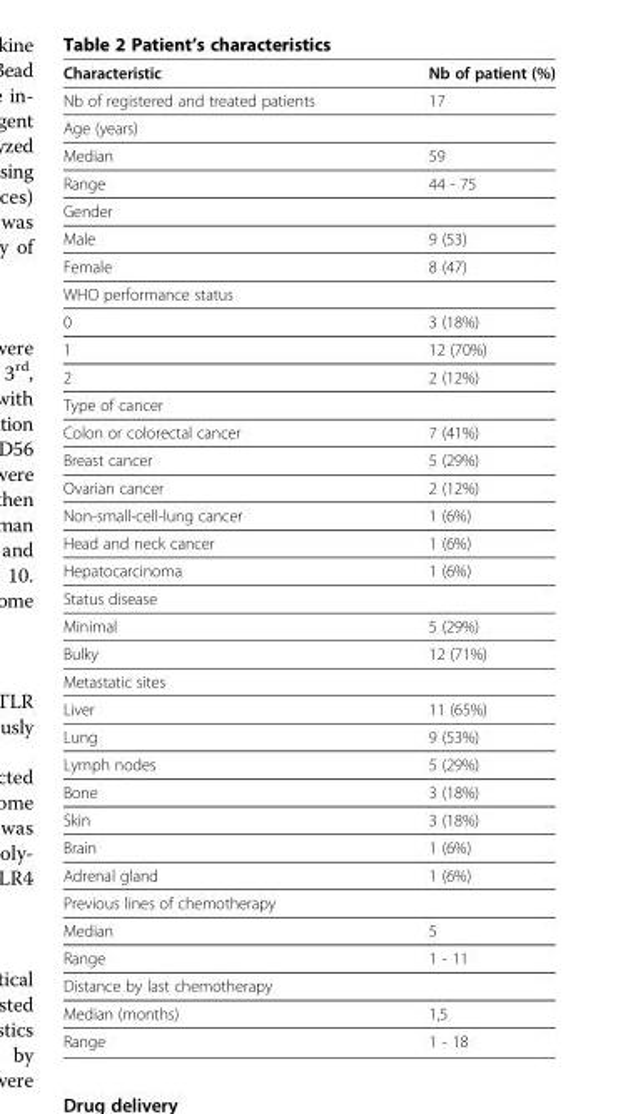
<table><thead><tr><td>Characteristic</td><td>Nb of patient (%)</td></tr></thead><tbody><tr><td>Nb of registered and treated patients</td><td>17</td></tr><tr><td colspan="2">Age (years)</td></tr><tr><td>Median</td><td>59</td></tr><tr><td>Range</td><td>44 - 75</td></tr><tr><td colspan="2">Gender</td></tr><tr><td>Male</td><td>9 (53)</td></tr><tr><td>Female</td><td>8 (47)</td></tr><tr><td colspan="2">WHO performance status</td></tr><tr><td>0</td><td>3 (18%)</td></tr><tr><td>1</td><td>12 (70%)</td></tr><tr><td>2</td><td>2 (12%)</td></tr><tr><td colspan="2">Type of cancer</td></tr><tr><td>Colon or colorectal cancer</td><td>7 (41%)</td></tr><tr><td>Breast cancer</td><td>5 (29%)</td></tr><tr><td>Ovarian cancer</td><td>2 (12%)</td></tr><tr><td>Non-small-cell-lung cancer</td><td>1 (6%)</td></tr><tr><td>Head and neck cancer</td><td>1 (6%)</td></tr><tr><td>Hepatocarcinoma</td><td>1 (6%)</td></tr><tr><td colspan="2">Status disease</td></tr><tr><td>Minimal</td><td>5 (29%)</td></tr><tr><td>Bulky</td><td>12 (71%)</td></tr><tr><td colspan="2">Metastatic sites</td></tr><tr><td>Liver</td><td>11 (65%)</td></tr><tr><td>Lung</td><td>9 (53%)</td></tr><tr><td>Lymph nodes</td><td>5 (29%)</td></tr><tr><td>Bone</td><td>3 (18%)</td></tr><tr><td>Skin</td><td>3 (18%)</td></tr><tr><td>Brain</td><td>1 (6%)</td></tr><tr><td>Adrenal gland</td><td>1 (6%)</td></tr><tr><td colspan="2">Previous lines of chemotherapy</td></tr><tr><td>Median</td><td>5</td></tr><tr><td>Range</td><td>1 - 11</td></tr><tr><td colspan="2">Distance by last chemotherapy</td></tr><tr><td>Median (months)</td><td>1,5</td></tr><tr><td>Range</td><td>1 - 18</td></tr></tbody></table>